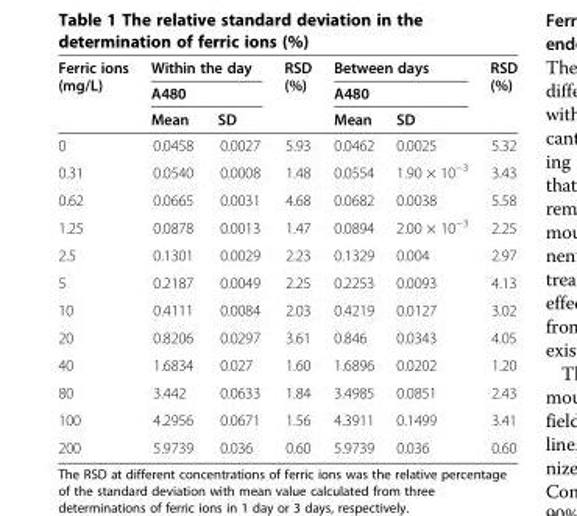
<table><thead><tr><td rowspan="3">Ferric ions (mg/L)</td><td rowspan="2" colspan="2">Within the day A480</td><td rowspan="3">RSD (%)</td><td rowspan="2" colspan="2">Between days A480</td><td rowspan="3">RSD (%)</td></tr><tr></tr><tr><td>Mean</td><td>SD</td><td>Mean</td><td>SD</td></tr></thead><tbody><tr><td>0</td><td>0.0458</td><td>0.0027</td><td>5.93</td><td>0.0462</td><td>0.0025</td><td>5.32</td></tr><tr><td>0.31</td><td>0.0540</td><td>0.0008</td><td>1.48</td><td>0.0554</td><td>1.90 × 10<sup>−3</sup></td><td>3.43</td></tr><tr><td>0.62</td><td>0.0665</td><td>0.0031</td><td>4.68</td><td>0.0682</td><td>0.0038</td><td>5.58</td></tr><tr><td>1.25</td><td>0.0878</td><td>0.0013</td><td>1.47</td><td>0.0894</td><td>2.00 × 10<sup>−3</sup></td><td>2.25</td></tr><tr><td>2.5</td><td>0.1301</td><td>0.0029</td><td>2.23</td><td>0.1329</td><td>0.004</td><td>2.97</td></tr><tr><td>5</td><td>0.2187</td><td>0.0049</td><td>2.25</td><td>0.2253</td><td>0.0093</td><td>4.13</td></tr><tr><td>10</td><td>0.4111</td><td>0.0084</td><td>2.03</td><td>0.4219</td><td>0.0127</td><td>3.02</td></tr><tr><td>20</td><td>0.8206</td><td>0.0297</td><td>3.61</td><td>0.846</td><td>0.0343</td><td>4.05</td></tr><tr><td>40</td><td>1.6834</td><td>0.027</td><td>1.60</td><td>1.6896</td><td>0.0202</td><td>1.20</td></tr><tr><td>80</td><td>3.442</td><td>0.0633</td><td>1.84</td><td>3.4985</td><td>0.0851</td><td>2.43</td></tr><tr><td>100</td><td>4.2956</td><td>0.0671</td><td>1.56</td><td>4.3911</td><td>0.1499</td><td>3.41</td></tr><tr><td>200</td><td>5.9739</td><td>0.036</td><td>0.60</td><td>5.9739</td><td>0.036</td><td>0.60</td></tr></tbody></table>